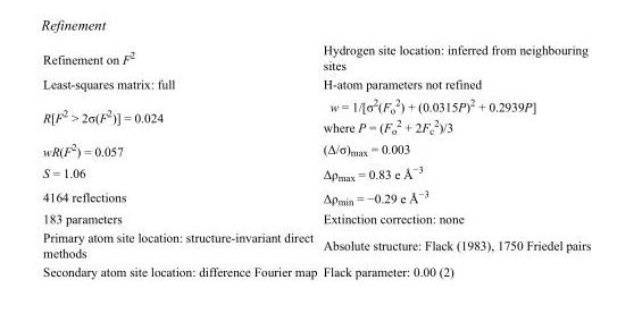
<table><tbody><tr><td>Refinement on F<sup>2</sup></td><td>Hydrogen site location: inferred from neighbouring sites</td></tr><tr><td>Least-squares matrix: full</td><td>H-atom parameters not refined</td></tr><tr><td>R[F<sup>2</sup> &gt; 2σ(F<sup>2</sup>)] = 0.024</td><td>w = 1/[σ<sup>2</sup>(F<sub>o</sub> <sup>2</sup>) + (0.0315P)<sup>2</sup> + 0.2939P] where P = (F<sub>o</sub> <sup>2</sup> + 2F<sub>c</sub> <sup>2</sup>)/3</td></tr><tr><td>wR(F<sup>2</sup>) = 0.057</td><td>(Δ/σ)<sub>max</sub> = 0.003</td></tr><tr><td>S = 1.06</td><td>Δρ<sub>max</sub> = 0.83 e Å<sup>−3</sup></td></tr><tr><td>4164 reflections</td><td>Δρ<sub>min</sub> = −0.29 e Å<sup>−3</sup></td></tr><tr><td>183 parameters</td><td>Extinction correction: none</td></tr><tr><td>Primary atom site location: structure-invariant direct methods</td><td>Absolute structure: Flack (1983), 1750 Friedel pairs</td></tr><tr><td>Secondary atom site location: difference Fourier map</td><td>Flack parameter: 0.00 (2)</td></tr></tbody></table>